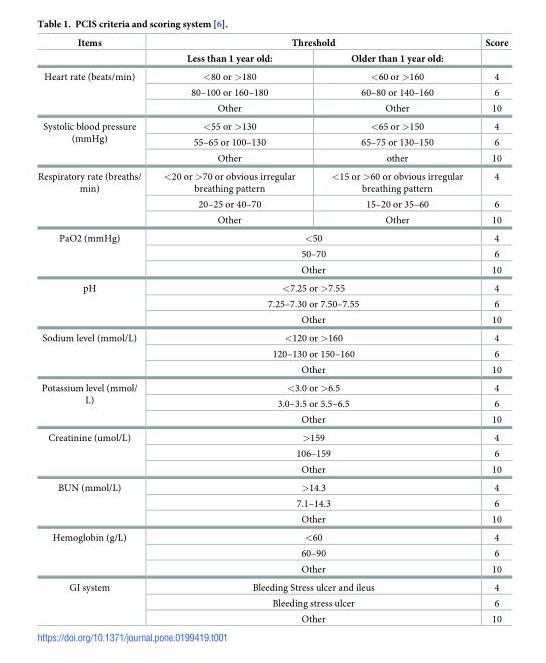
<table><thead><tr><td rowspan="2">Items</td><td colspan="2">Threshold</td><td rowspan="2">Score</td></tr><tr><td>Less than 1 year old:</td><td>Older than 1 year old:</td></tr></thead><tbody><tr><td rowspan="3">Heart rate (beats/min)</td><td>&lt;80 or &gt;180</td><td>&lt;60 or &gt;160</td><td>4</td></tr><tr><td>80–100 or 160–180</td><td>60–80 or 140–160</td><td>6</td></tr><tr><td>Other</td><td>Other</td><td>10</td></tr><tr><td rowspan="3">Systolic blood pressure (mmHg)</td><td>&lt;55 or &gt;130</td><td>&lt;65 or &gt;150</td><td>4</td></tr><tr><td>55–65 or 100–130</td><td>65–75 or 130–150</td><td>6</td></tr><tr><td>Other</td><td>other</td><td>10</td></tr><tr><td rowspan="3">Respiratory rate (breaths/ min)</td><td>&lt;20 or &gt;70 or obvious irregular breathing pattern</td><td>&lt;15 or &gt;60 or obvious irregular breathing pattern</td><td>4</td></tr><tr><td>20–25 or 40–70</td><td>15–20 or 35–60</td><td>6</td></tr><tr><td>Other</td><td>Other</td><td>10</td></tr><tr><td rowspan="3">PaO2 (mmHg)</td><td colspan="2">&lt;50</td><td>4</td></tr><tr><td colspan="2">50–70</td><td>6</td></tr><tr><td colspan="2">Other</td><td>10</td></tr><tr><td rowspan="3">pH</td><td colspan="2">&lt;7.25 or &gt;7.55</td><td>4</td></tr><tr><td colspan="2">7.25–7.30 or 7.50–7.55</td><td>6</td></tr><tr><td colspan="2">Other</td><td>10</td></tr><tr><td rowspan="3">Sodium level (mmol/L)</td><td colspan="2">&lt;120 or &gt;160</td><td>4</td></tr><tr><td colspan="2">120–130 or 150–160</td><td>6</td></tr><tr><td colspan="2">Other</td><td>10</td></tr><tr><td rowspan="3">Potassium level (mmol/ L)</td><td colspan="2">&lt;3.0 or &gt;6.5</td><td>4</td></tr><tr><td colspan="2">3.0–3.5 or 5.5–6.5</td><td>6</td></tr><tr><td colspan="2">Other</td><td>10</td></tr><tr><td rowspan="3">Creatinine (umol/L)</td><td colspan="2">&gt;159</td><td>4</td></tr><tr><td colspan="2">106–159</td><td>6</td></tr><tr><td colspan="2">Other</td><td>10</td></tr><tr><td rowspan="3">BUN (mmol/L)</td><td colspan="2">&gt;14.3</td><td>4</td></tr><tr><td colspan="2">7.1–14.3</td><td>6</td></tr><tr><td colspan="2">Other</td><td>10</td></tr><tr><td rowspan="3">Hemoglobin (g/L)</td><td colspan="2">&lt;60</td><td>4</td></tr><tr><td colspan="2">60–90</td><td>6</td></tr><tr><td colspan="2">Other</td><td>10</td></tr><tr><td rowspan="3">GI system</td><td colspan="2">Bleeding Stress ulcer and ileus</td><td>4</td></tr><tr><td colspan="2">Bleeding stress ulcer</td><td>6</td></tr><tr><td colspan="2">Other</td><td>10</td></tr></tbody></table>